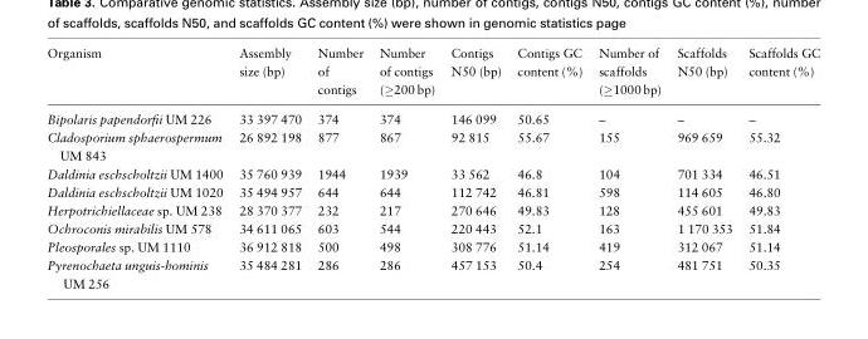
<table><thead><tr><td>Organism</td><td>Assembly size (bp)</td><td>Number of contigs</td><td>Number of contigs (≥200 bp)</td><td>Contigs N50 (bp)</td><td>Contigs GC content (%)</td><td>Number of scaffolds (≥1000 bp)</td><td>Scaffolds N50 (bp)</td><td>Scaffolds GC content (%)</td></tr></thead><tbody><tr><td>Bipolaris papendorfii UM 226</td><td>33 397 470</td><td>374</td><td>374</td><td>146 099</td><td>50.65</td><td>–</td><td>–</td><td>–</td></tr><tr><td>Cladosporium sphaerospermum UM 843</td><td>26 892 198</td><td>877</td><td>867</td><td>92 815</td><td>55.67</td><td>155</td><td>969 659</td><td>55.32</td></tr><tr><td>Daldinia eschscholtzii UM 1400</td><td>35 760 939</td><td>1944</td><td>1939</td><td>33 562</td><td>46.8</td><td>104</td><td>701 334</td><td>46.51</td></tr><tr><td>Daldinia eschscholtzii UM 1020</td><td>35 494 957</td><td>644</td><td>644</td><td>112 742</td><td>46.81</td><td>598</td><td>114 605</td><td>46.80</td></tr><tr><td>Herpotrichiellaceae sp. UM 238</td><td>28 370 377</td><td>232</td><td>217</td><td>270 646</td><td>49.83</td><td>128</td><td>455 601</td><td>49.83</td></tr><tr><td>Ochroconis mirabilis UM 578</td><td>34 611 065</td><td>603</td><td>544</td><td>220 443</td><td>52.1</td><td>163</td><td>1 170 353</td><td>51.84</td></tr><tr><td>Pleosporales sp. UM 1110</td><td>36 912 818</td><td>500</td><td>498</td><td>308 776</td><td>51.14</td><td>419</td><td>312 067</td><td>51.14</td></tr><tr><td>Pyrenochaeta unguis-hominis UM 256</td><td>35 484 281</td><td>286</td><td>286</td><td>457 153</td><td>50.4</td><td>254</td><td>481 751</td><td>50.35</td></tr></tbody></table>